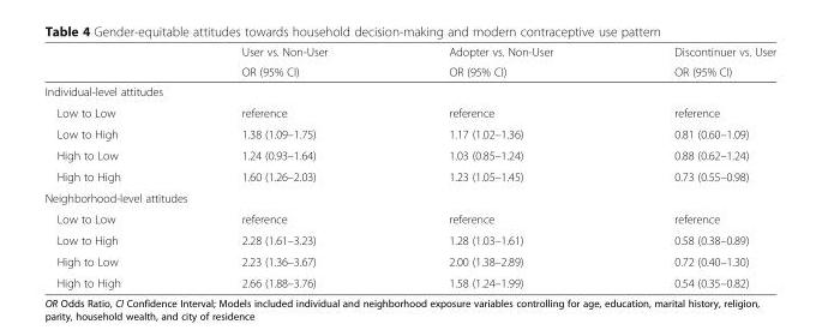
<table><thead><tr><td rowspan="2"></td><td rowspan="2">User vs. Non-User OR (95% CI)</td><td rowspan="2">Adopter vs. Non-User OR (95% CI)</td><td rowspan="2">Discontinuer vs. User OR (95% CI)</td></tr><tr></tr></thead><tbody><tr><td colspan="4">Individual-level attitudes</td></tr><tr><td>Low to Low</td><td>reference</td><td>reference</td><td>reference</td></tr><tr><td>Low to High</td><td>1.38 (1.09–1.75)</td><td>1.17 (1.02–1.36)</td><td>0.81 (0.60–1.09)</td></tr><tr><td>High to Low</td><td>1.24 (0.93–1.64)</td><td>1.03 (0.85–1.24)</td><td>0.88 (0.62–1.24)</td></tr><tr><td>High to High</td><td>1.60 (1.26–2.03)</td><td>1.23 (1.05–1.45)</td><td>0.73 (0.55–0.98)</td></tr><tr><td colspan="4">Neighborhood-level attitudes</td></tr><tr><td>Low to Low</td><td>reference</td><td>reference</td><td>reference</td></tr><tr><td>Low to High</td><td>2.28 (1.61–3.23)</td><td>1.28 (1.03–1.61)</td><td>0.58 (0.38–0.89)</td></tr><tr><td>High to Low</td><td>2.23 (1.36–3.67)</td><td>2.00 (1.38–2.89)</td><td>0.72 (0.40–1.30)</td></tr><tr><td>High to High</td><td>2.66 (1.88–3.76)</td><td>1.58 (1.24–1.99)</td><td>0.54 (0.35–0.82)</td></tr></tbody></table>